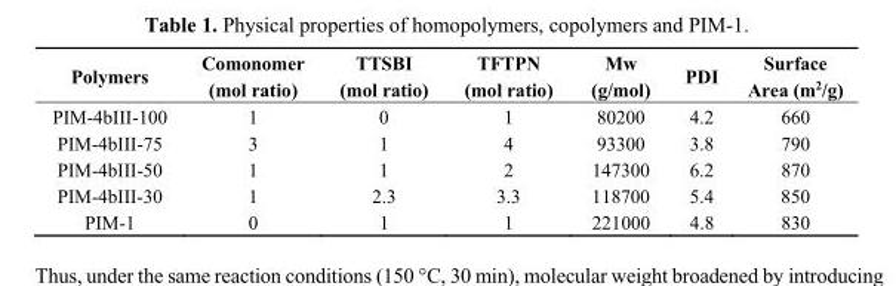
<table><thead><tr><td>Polymers</td><td>Comonomer (mol ratio)</td><td>TTSBI (mol ratio)</td><td>TFTPN (mol ratio)</td><td>Mw (g/mol)</td><td>PDI</td><td>Surface Area (m<sup>2</sup>/g)</td></tr></thead><tbody><tr><td>PIM-4bIII-100</td><td>1</td><td>0</td><td>1</td><td>80200</td><td>4.2</td><td>660</td></tr><tr><td>PIM-4bIII-75</td><td>3</td><td>1</td><td>4</td><td>93300</td><td>3.8</td><td>790</td></tr><tr><td>PIM-4bIII-50</td><td>1</td><td>1</td><td>2</td><td>147300</td><td>6.2</td><td>870</td></tr><tr><td>PIM-4bIII-30</td><td>1</td><td>2.3</td><td>3.3</td><td>118700</td><td>5.4</td><td>850</td></tr><tr><td>PIM-1</td><td>0</td><td>1</td><td>1</td><td>221000</td><td>4.8</td><td>830</td></tr></tbody></table>